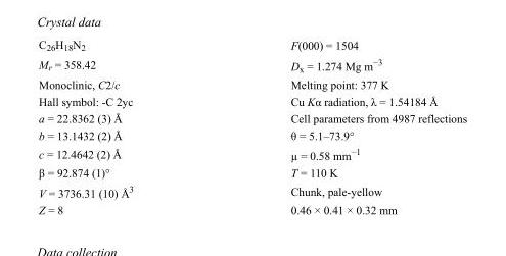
<table><tbody><tr><td>C<sub>26</sub>H<sub>18</sub>N<sub>2</sub></td><td>F(000) = 1504</td></tr><tr><td>M<sub>r</sub> = 358.42</td><td>D<sub>x</sub> = 1.274 Mg m<sup>−3</sup></td></tr><tr><td>Monoclinic, C2/c</td><td>Melting point: 377 K</td></tr><tr><td>Hall symbol: -C 2yc</td><td>Cu Kα radiation, λ = 1.54184 Å</td></tr><tr><td>a = 22.8362 (3) Å</td><td>Cell parameters from 4987 reflections</td></tr><tr><td>b = 13.1432 (2) Å</td><td>θ = 5.1–73.9°</td></tr><tr><td>c = 12.4642 (2) Å</td><td>µ = 0.58 mm<sup>−1</sup></td></tr><tr><td>β = 92.874 (1)°</td><td>T = 110 K</td></tr><tr><td>V = 3736.31 (10) Å<sup>3</sup></td><td>Chunk, pale-yellow</td></tr><tr><td>Z = 8</td><td>0.46 × 0.41 × 0.32 mm</td></tr></tbody></table>